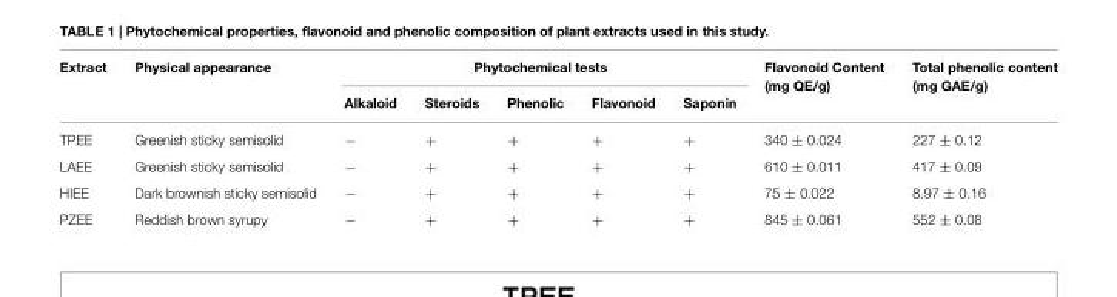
<table><thead><tr><td rowspan="2">Extract</td><td rowspan="2">Physical appearance</td><td colspan="5">Phytochemical tests</td><td rowspan="2">Flavonoid Content (mg QE/g)</td><td rowspan="2">Total phenolic content (mg GAE/g)</td></tr><tr><td>Alkaloid</td><td>Steroids</td><td>Phenolic</td><td>Flavonoid</td><td>Saponin</td></tr></thead><tbody><tr><td>TPEE</td><td>Greenish sticky semisolid</td><td>−</td><td>+</td><td>+</td><td>+</td><td>+</td><td>340 ± 0.024</td><td>227 ± 0.12</td></tr><tr><td>LAEE</td><td>Greenish sticky semisolid</td><td>−</td><td>+</td><td>+</td><td>+</td><td>+</td><td>610 ± 0.011</td><td>417 ± 0.09</td></tr><tr><td>HIEE</td><td>Dark brownish sticky semisolid</td><td>−</td><td>+</td><td>+</td><td>+</td><td>+</td><td>75 ± 0.022</td><td>8.97 ± 0.16</td></tr><tr><td>PZEE</td><td>Reddish brown syrupy</td><td>−</td><td>+</td><td>+</td><td>+</td><td>+</td><td>845 ± 0.061</td><td>552 ± 0.08</td></tr></tbody></table>